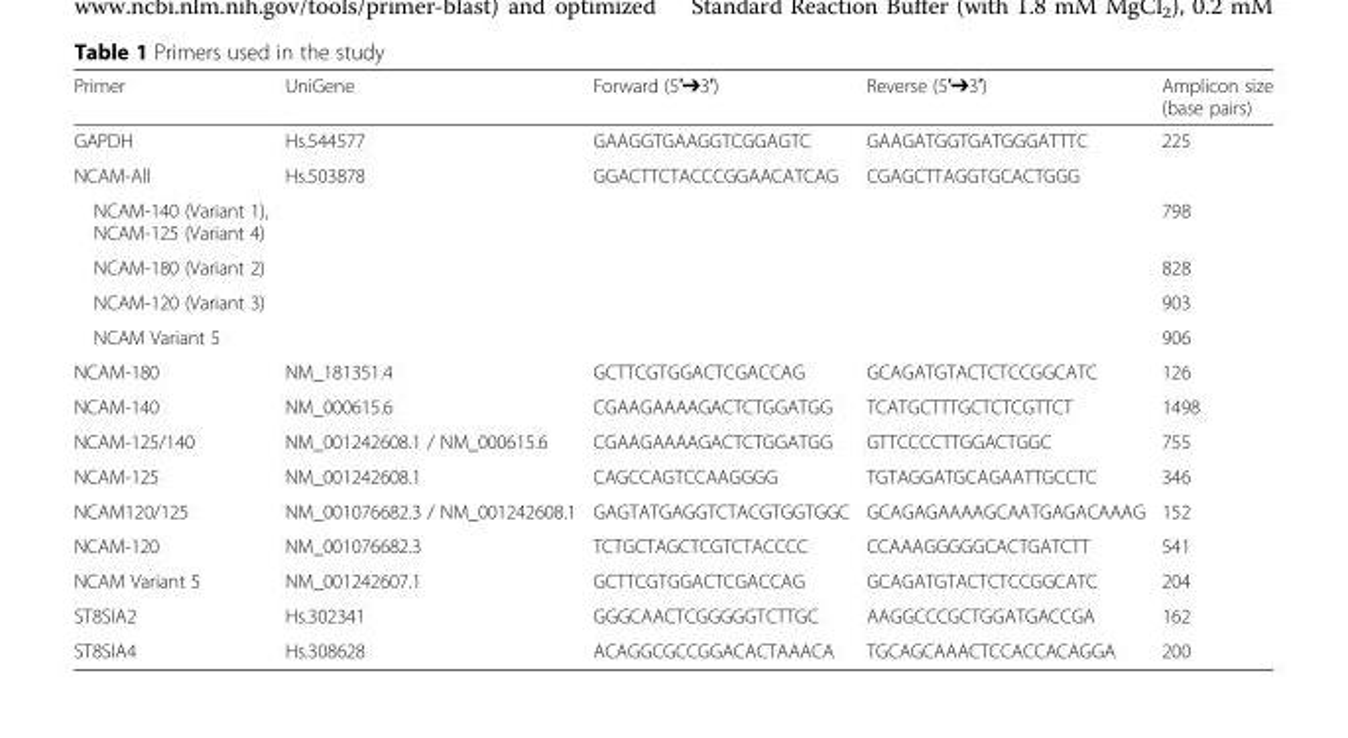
<table><thead><tr><td>Primer</td><td>UniGene</td><td>Forward (5′➔3′)</td><td>Reverse (5′➔3′)</td><td>Amplicon size (base pairs)</td></tr></thead><tbody><tr><td>GAPDH</td><td>Hs.544577</td><td>GAAGGTGAAGGTCGGAGTC</td><td>GAAGATGGTGATGGGATTTC</td><td>225</td></tr><tr><td>NCAM-All</td><td>Hs.503878</td><td>GGACTTCTACCCGGAACATCAG</td><td>CGAGCTTAGGTGCACTGGG</td><td></td></tr><tr><td>NCAM-140 (Variant 1), NCAM-125 (Variant 4)</td><td></td><td></td><td></td><td>798</td></tr><tr><td>NCAM-180 (Variant 2)</td><td></td><td></td><td></td><td>828</td></tr><tr><td>NCAM-120 (Variant 3)</td><td></td><td></td><td></td><td>903</td></tr><tr><td>NCAM Variant 5</td><td></td><td></td><td></td><td>906</td></tr><tr><td>NCAM-180</td><td>NM_181351.4</td><td>GCTTCGTGGACTCGACCAG</td><td>GCAGATGTACTCTCCGGCATC</td><td>126</td></tr><tr><td>NCAM-140</td><td>NM_000615.6</td><td>CGAAGAAAAGACTCTGGATGG</td><td>TCATGCTTTGCTCTCGTTCT</td><td>1498</td></tr><tr><td>NCAM-125/140</td><td>NM_001242608.1 / NM_000615.6</td><td>CGAAGAAAAGACTCTGGATGG</td><td>GTTCCCCTTGGACTGGC</td><td>755</td></tr><tr><td>NCAM-125</td><td>NM_001242608.1</td><td>CAGCCAGTCCAAGGGG</td><td>TGTAGGATGCAGAATTGCCTC</td><td>346</td></tr><tr><td>NCAM120/125</td><td>NM_001076682.3 / NM_001242608.1</td><td>GAGTATGAGGTCTACGTGGTGGC</td><td>GCAGAGAAAAGCAATGAGACAAAG</td><td>152</td></tr><tr><td>NCAM-120</td><td>NM_001076682.3</td><td>TCTGCTAGCTCGTCTACCCC</td><td>CCAAAGGGGGCACTGATCTT</td><td>541</td></tr><tr><td>NCAM Variant 5</td><td>NM_001242607.1</td><td>GCTTCGTGGACTCGACCAG</td><td>GCAGATGTACTCTCCGGCATC</td><td>204</td></tr><tr><td>ST8SIA2</td><td>Hs.302341</td><td>GGGCAACTCGGGGGTCTTGC</td><td>AAGGCCCGCTGGATGACCGA</td><td>162</td></tr><tr><td>ST8SIA4</td><td>Hs.308628</td><td>ACAGGCGCCGGACACTAAACA</td><td>TGCAGCAAACTCCACCACAGGA</td><td>200</td></tr></tbody></table>